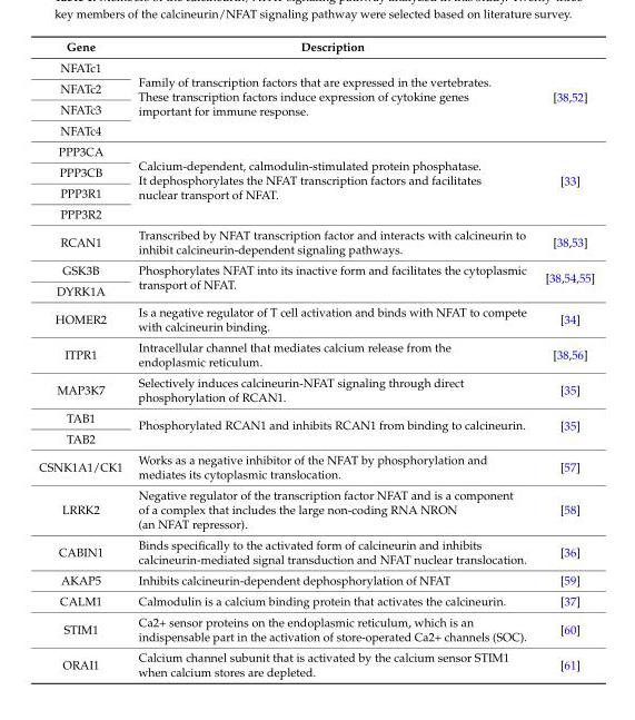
<table><thead><tr><td>Gene</td><td>Description</td><td></td></tr></thead><tbody><tr><td>NFATc1</td><td rowspan="4">Family of transcription factors that are expressed in the vertebrates. These transcription factors induce expression of cytokine genes important for immune response.</td><td rowspan="4">[38,52]</td></tr><tr><td>NFATc2</td></tr><tr><td>NFATc3</td></tr><tr><td>NFATc4</td></tr><tr><td>PPP3CA</td><td rowspan="4">Calcium-dependent, calmodulin-stimulated protein phosphatase. It dephosphorylates the NFAT transcription factors and facilitates nuclear transport of NFAT.</td><td rowspan="4">[33]</td></tr><tr><td>PPP3CB</td></tr><tr><td>PPP3R1</td></tr><tr><td>PPP3R2</td></tr><tr><td>RCAN1</td><td>Transcribed by NFAT transcription factor and interacts with calcineurin to inhibit calcineurin-dependent signaling pathways.</td><td>[38,53]</td></tr><tr><td>GSK3B</td><td rowspan="2">Phosphorylates NFAT into its inactive form and facilitates the cytoplasmic transport of NFAT.</td><td rowspan="2">[38,54,55]</td></tr><tr><td>DYRK1A</td></tr><tr><td>HOMER2</td><td>Is a negative regulator of T cell activation and binds with NFAT to compete with calcineurin binding.</td><td>[34]</td></tr><tr><td>ITPR1</td><td>Intracellular channel that mediates calcium release from the endoplasmic reticulum.</td><td>[38,56]</td></tr><tr><td>MAP3K7</td><td>Selectively induces calcineurin-NFAT signaling through direct phosphorylation of RCAN1.</td><td>[35]</td></tr><tr><td>TAB1</td><td rowspan="2">Phosphorylated RCAN1 and inhibits RCAN1 from binding to calcineurin.</td><td rowspan="2">[35]</td></tr><tr><td>TAB2</td></tr><tr><td>CSNK1A1/CK1</td><td>Works as a negative inhibitor of the NFAT by phosphorylation and mediates its cytoplasmic translocation.</td><td>[57]</td></tr><tr><td>LRRK2</td><td>Negative regulator of the transcription factor NFAT and is a component of a complex that includes the large non-coding RNA NRON (an NFAT repressor).</td><td>[58]</td></tr><tr><td>CABIN1</td><td>Binds specifically to the activated form of calcineurin and inhibits calcineurin-mediated signal transduction and NFAT nuclear translocation.</td><td>[36]</td></tr><tr><td>AKAP5</td><td>Inhibits calcineurin-dependent dephosphorylation of NFAT</td><td>[59]</td></tr><tr><td>CALM1</td><td>Calmodulin is a calcium binding protein that activates the calcineurin.</td><td>[37]</td></tr><tr><td>STIM1</td><td>Ca2+ sensor proteins on the endoplasmic reticulum, which is an indispensable part in the activation of store-operated Ca2+ channels (SOC).</td><td>[60]</td></tr><tr><td>ORAI1</td><td>Calcium channel subunit that is activated by the calcium sensor STIM1 when calcium stores are depleted.</td><td>[61]</td></tr></tbody></table>